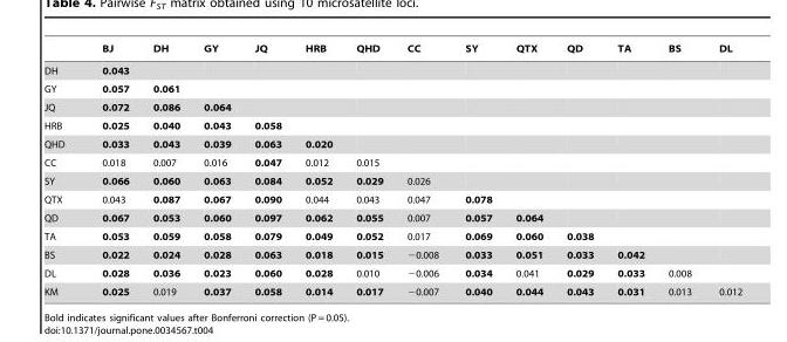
<table><thead><tr><td></td><td>BJ</td><td>DH</td><td>GY</td><td>JQ</td><td>HRB</td><td>QHD</td><td>CC</td><td>SY</td><td>QTX</td><td>QD</td><td>TA</td><td>BS</td><td>DL</td></tr></thead><tbody><tr><td>DH</td><td>0.043</td><td></td><td></td><td></td><td></td><td></td><td></td><td></td><td></td><td></td><td></td><td></td><td></td></tr><tr><td>GY</td><td>0.057</td><td>0.061</td><td></td><td></td><td></td><td></td><td></td><td></td><td></td><td></td><td></td><td></td><td></td></tr><tr><td>JQ</td><td>0.072</td><td>0.086</td><td>0.064</td><td></td><td></td><td></td><td></td><td></td><td></td><td></td><td></td><td></td><td></td></tr><tr><td>HRB</td><td>0.025</td><td>0.040</td><td>0.043</td><td>0.058</td><td></td><td></td><td></td><td></td><td></td><td></td><td></td><td></td><td></td></tr><tr><td>QHD</td><td>0.033</td><td>0.043</td><td>0.039</td><td>0.063</td><td>0.020</td><td></td><td></td><td></td><td></td><td></td><td></td><td></td><td></td></tr><tr><td>CC</td><td>0.018</td><td>0.007</td><td>0.016</td><td>0.047</td><td>0.012</td><td>0.015</td><td></td><td></td><td></td><td></td><td></td><td></td><td></td></tr><tr><td>SY</td><td>0.066</td><td>0.060</td><td>0.063</td><td>0.084</td><td>0.052</td><td>0.029</td><td>0.026</td><td></td><td></td><td></td><td></td><td></td><td></td></tr><tr><td>QTX</td><td>0.043</td><td>0.087</td><td>0.067</td><td>0.090</td><td>0.044</td><td>0.043</td><td>0.047</td><td>0.078</td><td></td><td></td><td></td><td></td><td></td></tr><tr><td>QD</td><td>0.067</td><td>0.053</td><td>0.060</td><td>0.097</td><td>0.062</td><td>0.055</td><td>0.007</td><td>0.057</td><td>0.064</td><td></td><td></td><td></td><td></td></tr><tr><td>TA</td><td>0.053</td><td>0.059</td><td>0.058</td><td>0.079</td><td>0.049</td><td>0.052</td><td>0.017</td><td>0.069</td><td>0.060</td><td>0.038</td><td></td><td></td><td></td></tr><tr><td>BS</td><td>0.022</td><td>0.024</td><td>0.028</td><td>0.063</td><td>0.018</td><td>0.015</td><td>−0.008</td><td>0.033</td><td>0.051</td><td>0.033</td><td>0.042</td><td></td><td></td></tr><tr><td>DL</td><td>0.028</td><td>0.036</td><td>0.023</td><td>0.060</td><td>0.028</td><td>0.010</td><td>−0.006</td><td>0.034</td><td>0.041</td><td>0.029</td><td>0.033</td><td>0.008</td><td></td></tr><tr><td>KM</td><td>0.025</td><td>0.019</td><td>0.037</td><td>0.058</td><td>0.014</td><td>0.017</td><td>−0.007</td><td>0.040</td><td>0.044</td><td>0.043</td><td>0.031</td><td>0.013</td><td>0.012</td></tr></tbody></table>